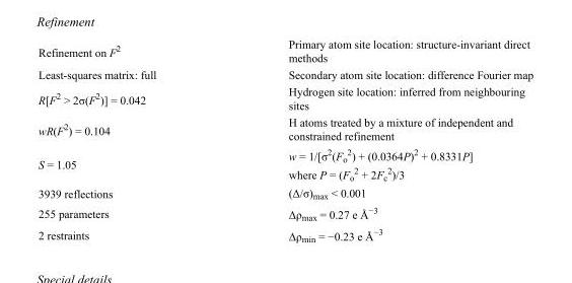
<table><tbody><tr><td>Refinement on F<sup>2</sup></td><td>Primary atom site location: structure-invariant direct methods</td></tr><tr><td>Least-squares matrix: full</td><td>Secondary atom site location: difference Fourier map</td></tr><tr><td>R[F<sup>2</sup> &gt; 2σ(F<sup>2</sup>)] = 0.042</td><td>Hydrogen site location: inferred from neighbouring sites</td></tr><tr><td>wR(F<sup>2</sup>) = 0.104</td><td>H atoms treated by a mixture of independent and constrained refinement</td></tr><tr><td>S = 1.05</td><td>w = 1/[σ<sup>2</sup>(F<sub>o</sub> <sup>2</sup>) + (0.0364P)<sup>2</sup> + 0.8331P] where P = (F<sub>o</sub> <sup>2</sup> + 2F<sub>c</sub> <sup>2</sup>)/3</td></tr><tr><td>3939 reflections</td><td>(Δ/σ)<sub>max</sub> &lt; 0.001</td></tr><tr><td>255 parameters</td><td>Δρ<sub>max</sub> = 0.27 e Å<sup>−3</sup></td></tr><tr><td>2 restraints</td><td>Δρ<sub>min</sub> = −0.23 e Å<sup>−3</sup></td></tr></tbody></table>